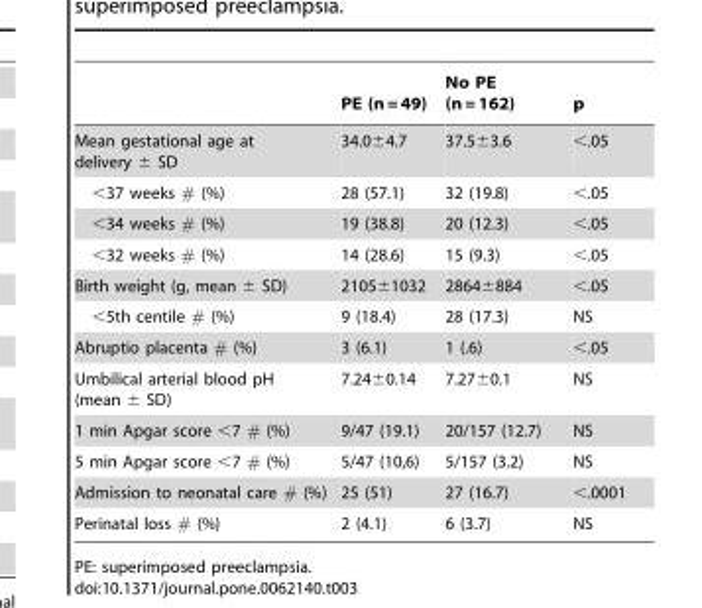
<table><thead><tr><td></td><td>PE (n = 49)</td><td>No PE (n = 162)</td><td>p</td></tr></thead><tbody><tr><td>Mean gestational age at delivery ± SD</td><td>34.0±4.7</td><td>37.5±3.6</td><td>&lt;.05</td></tr><tr><td>&lt;37 weeks # (%)</td><td>28 (57.1)</td><td>32 (19.8)</td><td>&lt;.05</td></tr><tr><td>&lt;34 weeks # (%)</td><td>19 (38.8)</td><td>20 (12.3)</td><td>&lt;.05</td></tr><tr><td>&lt;32 weeks # (%)</td><td>14 (28.6)</td><td>15 (9.3)</td><td>&lt;.05</td></tr><tr><td>Birth weight (g, mean ± SD)</td><td>2105±1032</td><td>2864±884</td><td>&lt;.05</td></tr><tr><td>&lt;5th centile # (%)</td><td>9 (18.4)</td><td>28 (17.3)</td><td>NS</td></tr><tr><td>Abruptio placenta # (%)</td><td>3 (6.1)</td><td>1 (.6)</td><td>&lt;.05</td></tr><tr><td>Umbilical arterial blood pH (mean ± SD)</td><td>7.24±0.14</td><td>7.27±0.1</td><td>NS</td></tr><tr><td>1 min Apgar score &lt;7 # (%)</td><td>9/47 (19.1)</td><td>20/157 (12.7)</td><td>NS</td></tr><tr><td>5 min Apgar score &lt;7 # (%)</td><td>5/47 (10,6)</td><td>5/157 (3.2)</td><td>NS</td></tr><tr><td>Admission to neonatal care # (%)</td><td>25 (51)</td><td>27 (16.7)</td><td>&lt;.0001</td></tr><tr><td>Perinatal loss # (%)</td><td>2 (4.1)</td><td>6 (3.7)</td><td>NS</td></tr></tbody></table>